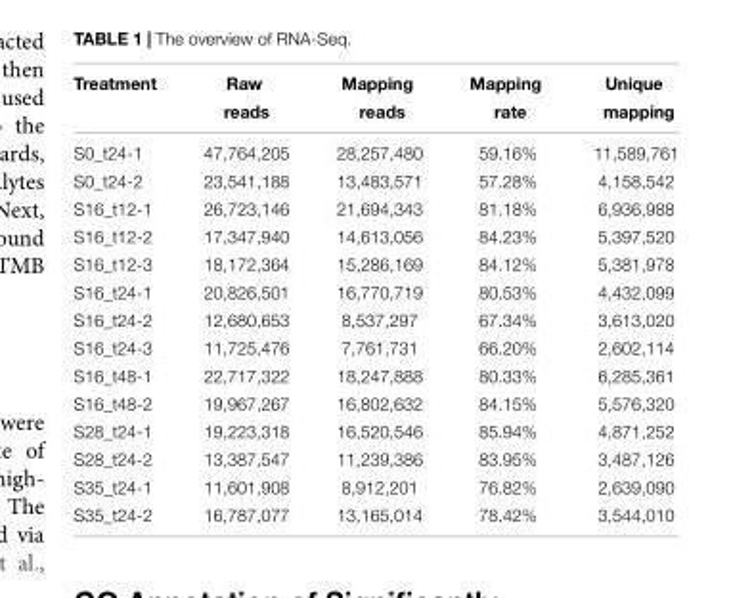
<table><thead><tr><td rowspan="2">Treatment</td><td rowspan="2">Raw reads</td><td rowspan="2">Mapping reads</td><td rowspan="2">Mapping rate</td><td rowspan="2">Unique mapping</td></tr><tr></tr></thead><tbody><tr><td>S0_t24-1</td><td>47,764,205</td><td>28,257,480</td><td>59.16%</td><td>11,589,761</td></tr><tr><td>S0_t24-2</td><td>23,541,188</td><td>13,483,571</td><td>57.28%</td><td>4,158,542</td></tr><tr><td>S16_t12-1</td><td>26,723,146</td><td>21,694,343</td><td>81.18%</td><td>6,936,988</td></tr><tr><td>S16_t12-2</td><td>17,347,940</td><td>14,613,056</td><td>84.23%</td><td>5,397,520</td></tr><tr><td>S16_t12-3</td><td>18,172,364</td><td>15,286,169</td><td>84.12%</td><td>5,381,978</td></tr><tr><td>S16_t24-1</td><td>20,826,501</td><td>16,770,719</td><td>80.53%</td><td>4,432,099</td></tr><tr><td>S16_t24-2</td><td>12,680,653</td><td>8,537,297</td><td>67.34%</td><td>3,613,020</td></tr><tr><td>S16_t24-3</td><td>11,725,476</td><td>7,761,731</td><td>66.20%</td><td>2,602,114</td></tr><tr><td>S16_t48-1</td><td>22,717,322</td><td>18,247,888</td><td>80.33%</td><td>6,285,361</td></tr><tr><td>S16_t48-2</td><td>19,967,267</td><td>16,802,632</td><td>84.15%</td><td>5,576,320</td></tr><tr><td>S28_t24-1</td><td>19,223,318</td><td>16,520,546</td><td>85.94%</td><td>4,871,252</td></tr><tr><td>S28_t24-2</td><td>13,387,547</td><td>11,239,386</td><td>83.95%</td><td>3,487,126</td></tr><tr><td>S35_t24-1</td><td>11,601,908</td><td>8,912,201</td><td>76.82%</td><td>2,639,090</td></tr><tr><td>S35_t24-2</td><td>16,787,077</td><td>13,165,014</td><td>78.42%</td><td>3,544,010</td></tr></tbody></table>